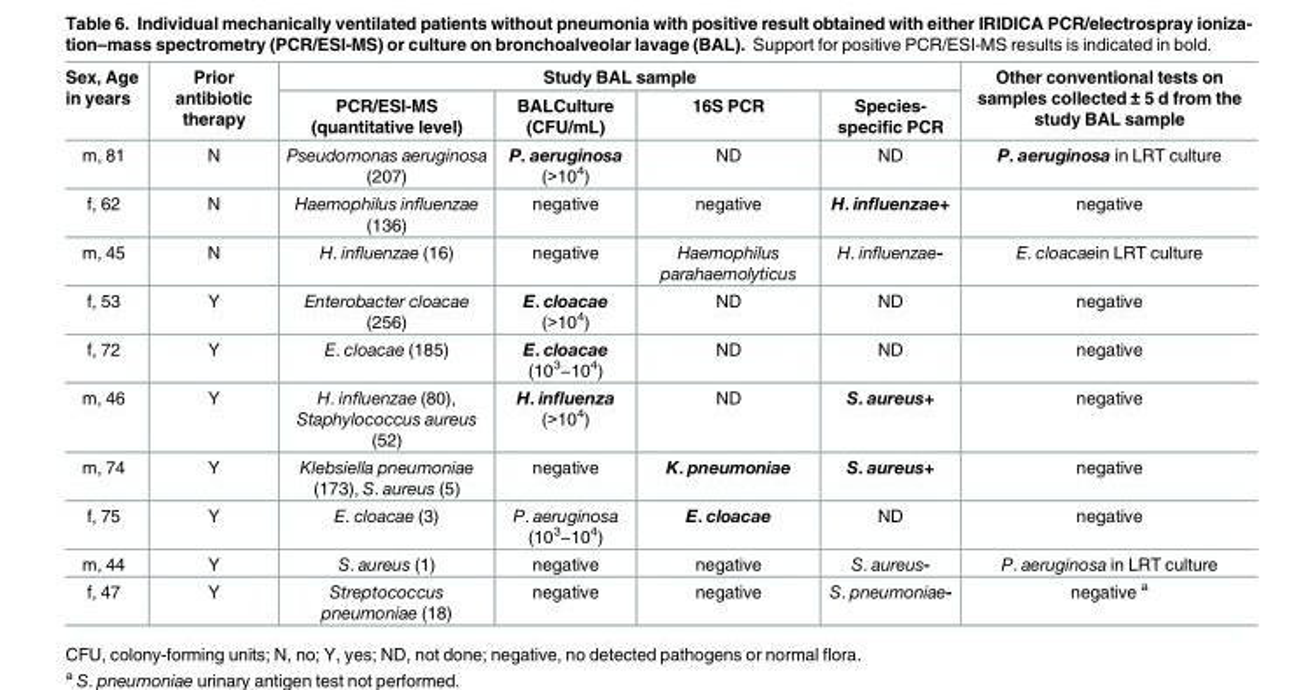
<table><thead><tr><td rowspan="2">Sex, Age in years</td><td rowspan="2">Prior antibiotic therapy</td><td colspan="4">Study BAL sample</td><td rowspan="2">Other conventional tests on samples collected ± 5 d from the study BAL sample</td></tr><tr><td>PCR/ESI-MS (quantitative level)</td><td>BALCulture (CFU/mL)</td><td>16S PCR</td><td>Species- specific PCR</td></tr></thead><tbody><tr><td>m, 81</td><td>N</td><td>Pseudomonas aeruginosa (207)</td><td>P. aeruginosa (&gt;10<sup>4</sup>)</td><td>ND</td><td>ND</td><td>P. aeruginosa in LRT culture</td></tr><tr><td>f, 62</td><td>N</td><td>Haemophilus influenzae (136)</td><td>negative</td><td>negative</td><td>H. influenzae+</td><td>negative</td></tr><tr><td>m, 45</td><td>N</td><td>H. influenzae (16)</td><td>negative</td><td>Haemophilus parahaemolyticus</td><td>H. influenzae-</td><td>E. cloacaein LRT culture</td></tr><tr><td>f, 53</td><td>Y</td><td>Enterobacter cloacae (256)</td><td>E. cloacae (&gt;10<sup>4</sup>)</td><td>ND</td><td>ND</td><td>negative</td></tr><tr><td>f, 72</td><td>Y</td><td>E. cloacae (185)</td><td>E. cloacae (10<sup>3</sup>−10<sup>4</sup>)</td><td>ND</td><td>ND</td><td>negative</td></tr><tr><td>m, 46</td><td>Y</td><td>H. influenzae (80), Staphylococcus aureus (52)</td><td>H. influenza (&gt;10<sup>4</sup>)</td><td>ND</td><td>S. aureus+</td><td>negative</td></tr><tr><td>m, 74</td><td>Y</td><td>Klebsiella pneumoniae (173), S. aureus (5)</td><td>negative</td><td>K. pneumoniae</td><td>S. aureus+</td><td>negative</td></tr><tr><td>f, 75</td><td>Y</td><td>E. cloacae (3)</td><td>P. aeruginosa (10<sup>3</sup>−10<sup>4</sup>)</td><td>E. cloacae</td><td>ND</td><td>negative</td></tr><tr><td>m, 44</td><td>Y</td><td>S. aureus (1)</td><td>negative</td><td>negative</td><td>S. aureus-</td><td>P. aeruginosa in LRT culture</td></tr><tr><td>f, 47</td><td>Y</td><td>Streptococcus pneumoniae (18)</td><td>negative</td><td>negative</td><td>S. pneumoniae-</td><td>negative <sup>a</sup></td></tr></tbody></table>